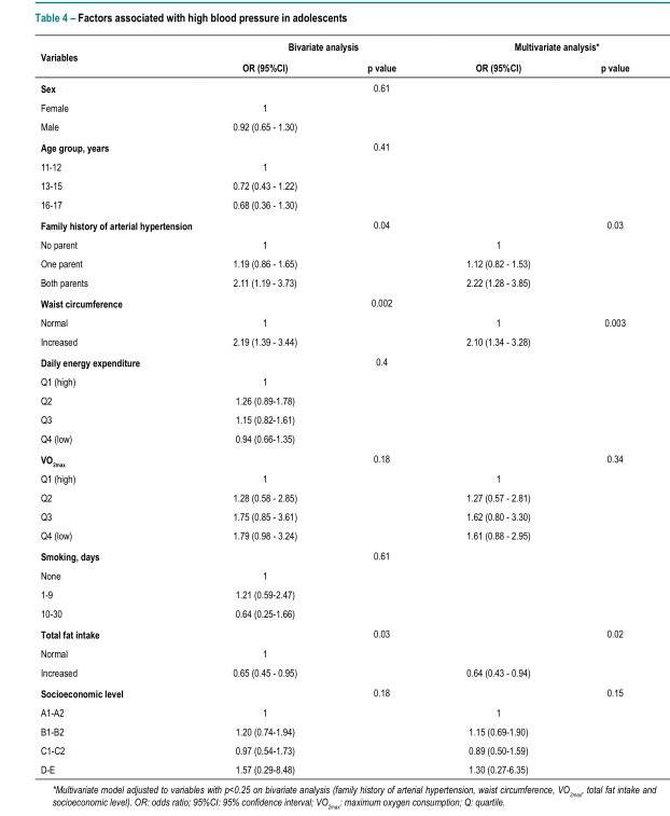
<table><thead><tr><td rowspan="2">Variables</td><td colspan="2">Bivariate analysis</td><td colspan="2">Multivariate analysis*</td></tr><tr><td>OR (95%CI)</td><td>p value</td><td>OR (95%CI)</td><td>p value</td></tr></thead><tbody><tr><td>Sex</td><td></td><td>0.61</td><td></td><td></td></tr><tr><td>Female</td><td>1</td><td></td><td></td><td></td></tr><tr><td>Male</td><td>0.92 (0.65 - 1.30)</td><td></td><td></td><td></td></tr><tr><td>Age group, years</td><td></td><td>0.41</td><td></td><td></td></tr><tr><td>11-12</td><td>1</td><td></td><td></td><td></td></tr><tr><td>13-15</td><td>0.72 (0.43 - 1.22)</td><td></td><td></td><td></td></tr><tr><td>16-17</td><td>0.68 (0.36 - 1.30)</td><td></td><td></td><td></td></tr><tr><td>Family history of arterial hypertension</td><td></td><td>0.04</td><td></td><td>0.03</td></tr><tr><td>No parent</td><td>1</td><td></td><td>1</td><td></td></tr><tr><td>One parent</td><td>1.19 (0.86 - 1.65)</td><td></td><td>1.12 (0.82 - 1.53)</td><td></td></tr><tr><td>Both parents</td><td>2.11 (1.19 - 3.73)</td><td></td><td>2.22 (1.28 - 3.85)</td><td></td></tr><tr><td>Waist circumference</td><td></td><td>0.002</td><td></td><td></td></tr><tr><td>Normal</td><td>1</td><td></td><td>1</td><td>0.003</td></tr><tr><td>Increased</td><td>2.19 (1.39 - 3.44)</td><td></td><td>2.10 (1.34 - 3.28)</td><td></td></tr><tr><td>Daily energy expenditure</td><td></td><td>0.4</td><td></td><td></td></tr><tr><td>Q1 (high)</td><td>1</td><td></td><td></td><td></td></tr><tr><td>Q2</td><td>1.26 (0.89-1.78)</td><td></td><td></td><td></td></tr><tr><td>Q3</td><td>1.15 (0.82-1.61)</td><td></td><td></td><td></td></tr><tr><td>Q4 (low)</td><td>0.94 (0.66-1.35)</td><td></td><td></td><td></td></tr><tr><td>VO<sub>2max</sub></td><td></td><td>0.18</td><td></td><td>0.34</td></tr><tr><td>Q1 (high)</td><td>1</td><td></td><td>1</td><td></td></tr><tr><td>Q2</td><td>1.28 (0.58 - 2.85)</td><td></td><td>1.27 (0.57 - 2.81)</td><td></td></tr><tr><td>Q3</td><td>1.75 (0.85 - 3.61)</td><td></td><td>1.62 (0.80 - 3.30)</td><td></td></tr><tr><td>Q4 (low)</td><td>1.79 (0.98 - 3.24)</td><td></td><td>1.61 (0.88 - 2.95)</td><td></td></tr><tr><td>Smoking, days</td><td></td><td>0.61</td><td></td><td></td></tr><tr><td>None</td><td>1</td><td></td><td></td><td></td></tr><tr><td>1-9</td><td>1.21 (0.59-2.47)</td><td></td><td></td><td></td></tr><tr><td>10-30</td><td>0.64 (0.25-1.66)</td><td></td><td></td><td></td></tr><tr><td>Total fat intake</td><td></td><td>0.03</td><td></td><td>0.02</td></tr><tr><td>Normal</td><td>1</td><td></td><td></td><td></td></tr><tr><td>Increased</td><td>0.65 (0.45 - 0.95)</td><td></td><td>0.64 (0.43 - 0.94)</td><td></td></tr><tr><td>Socioeconomic level</td><td></td><td>0.18</td><td></td><td>0.15</td></tr><tr><td>A1-A2</td><td>1</td><td></td><td>1</td><td></td></tr><tr><td>B1-B2</td><td>1.20 (0.74-1.94)</td><td></td><td>1.15 (0.69-1.90)</td><td></td></tr><tr><td>C1-C2</td><td>0.97 (0.54-1.73)</td><td></td><td>0.89 (0.50-1.59)</td><td></td></tr><tr><td>D-E</td><td>1.57 (0.29-8.48)</td><td></td><td>1.30 (0.27-6.35)</td><td></td></tr></tbody></table>